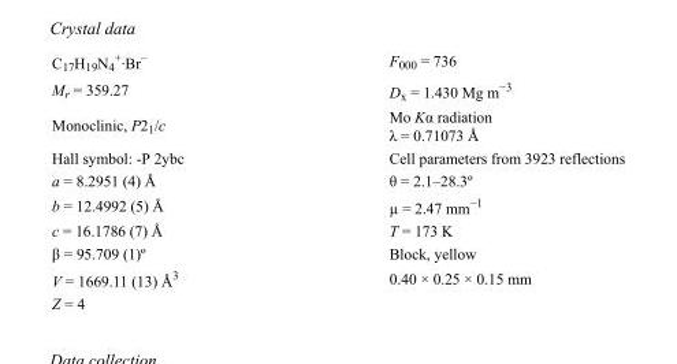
<table><tbody><tr><td>C<sub>17</sub>H<sub>19</sub>N<sub>4</sub> <sup>+</sup>·Br<sup>–</sup></td><td>F000 = 736</td></tr><tr><td>M<sub>r</sub> = 359.27</td><td>D<sub>x</sub> = 1.430 Mg m<sup>−3</sup></td></tr><tr><td>Monoclinic, P2<sub>1</sub>/c</td><td>Mo Kα radiation λ = 0.71073 Å</td></tr><tr><td>Hall symbol: -P 2ybc</td><td>Cell parameters from 3923 reflections</td></tr><tr><td>a = 8.2951 (4) Å</td><td>θ = 2.1–28.3º</td></tr><tr><td>b = 12.4992 (5) Å</td><td>µ = 2.47 mm<sup>−1</sup></td></tr><tr><td>c = 16.1786 (7) Å</td><td>T = 173 K</td></tr><tr><td>β = 95.709 (1)º</td><td>Block, yellow</td></tr><tr><td>V = 1669.11 (13) Å<sup>3</sup></td><td>0.40 × 0.25 × 0.15 mm</td></tr><tr><td>Z = 4</td><td></td></tr></tbody></table>